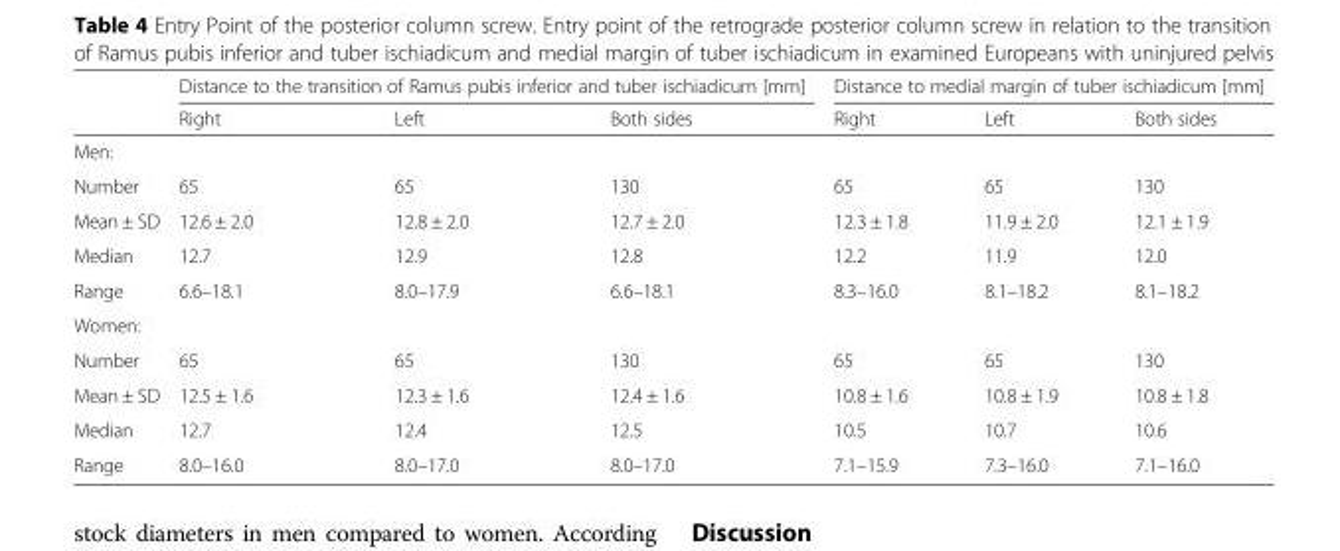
<table><thead><tr><td rowspan="2"></td><td colspan="3">Distance to the transition of Ramus pubis inferior and tuber ischiadicum [mm]</td><td colspan="3">Distance to medial margin of tuber ischiadicum [mm]</td></tr><tr><td>Right</td><td>Left</td><td>Both sides</td><td>Right</td><td>Left</td><td>Both sides</td></tr></thead><tbody><tr><td colspan="7">Men:</td></tr><tr><td>Number</td><td>65</td><td>65</td><td>130</td><td>65</td><td>65</td><td>130</td></tr><tr><td>Mean ± SD</td><td>12.6 ± 2.0</td><td>12.8 ± 2.0</td><td>12.7 ± 2.0</td><td>12.3 ± 1.8</td><td>11.9 ± 2.0</td><td>12.1 ± 1.9</td></tr><tr><td>Median</td><td>12.7</td><td>12.9</td><td>12.8</td><td>12.2</td><td>11.9</td><td>12.0</td></tr><tr><td>Range</td><td>6.6–18.1</td><td>8.0–17.9</td><td>6.6–18.1</td><td>8.3–16.0</td><td>8.1–18.2</td><td>8.1–18.2</td></tr><tr><td colspan="7">Women:</td></tr><tr><td>Number</td><td>65</td><td>65</td><td>130</td><td>65</td><td>65</td><td>130</td></tr><tr><td>Mean ± SD</td><td>12.5 ± 1.6</td><td>12.3 ± 1.6</td><td>12.4 ± 1.6</td><td>10.8 ± 1.6</td><td>10.8 ± 1.9</td><td>10.8 ± 1.8</td></tr><tr><td>Median</td><td>12.7</td><td>12.4</td><td>12.5</td><td>10.5</td><td>10.7</td><td>10.6</td></tr><tr><td>Range</td><td>8.0–16.0</td><td>8.0–17.0</td><td>8.0–17.0</td><td>7.1–15.9</td><td>7.3–16.0</td><td>7.1–16.0</td></tr></tbody></table>